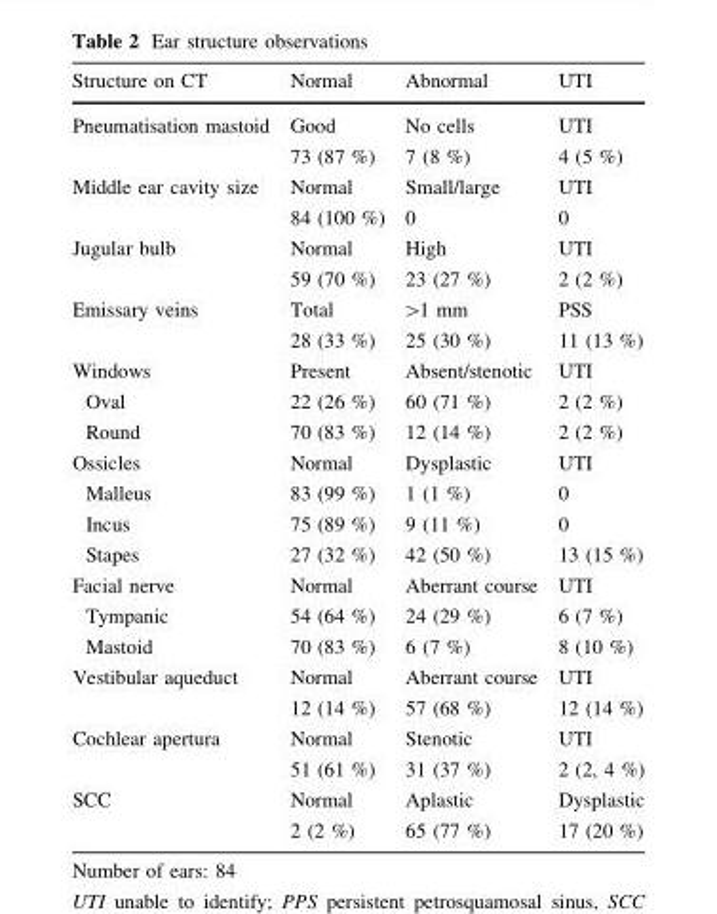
<table><thead><tr><td>Structure on CT</td><td>Normal</td><td>Abnormal</td><td>UTI</td></tr></thead><tbody><tr><td rowspan="2">Pneumatisation mastoid</td><td>Good</td><td>No cells</td><td>UTI</td></tr><tr><td>73 (87 %)</td><td>7 (8 %)</td><td>4 (5 %)</td></tr><tr><td rowspan="2">Middle ear cavity size</td><td>Normal</td><td>Small/large</td><td>UTI</td></tr><tr><td>84 (100 %)</td><td>0</td><td>0</td></tr><tr><td rowspan="2">Jugular bulb</td><td>Normal</td><td>High</td><td>UTI</td></tr><tr><td>59 (70 %)</td><td>23 (27 %)</td><td>2 (2 %)</td></tr><tr><td rowspan="2">Emissary veins</td><td>Total</td><td>&gt;1 mm</td><td>PSS</td></tr><tr><td>28 (33 %)</td><td>25 (30 %)</td><td>11 (13 %)</td></tr><tr><td>Windows</td><td>Present</td><td>Absent/stenotic</td><td>UTI</td></tr><tr><td>Oval</td><td>22 (26 %)</td><td>60 (71 %)</td><td>2 (2 %)</td></tr><tr><td>Round</td><td>70 (83 %)</td><td>12 (14 %)</td><td>2 (2 %)</td></tr><tr><td>Ossicles</td><td>Normal</td><td>Dysplastic</td><td>UTI</td></tr><tr><td>Malleus</td><td>83 (99 %)</td><td>1 (1 %)</td><td>0</td></tr><tr><td>Incus</td><td>75 (89 %)</td><td>9 (11 %)</td><td>0</td></tr><tr><td>Stapes</td><td>27 (32 %)</td><td>42 (50 %)</td><td>13 (15 %)</td></tr><tr><td>Facial nerve</td><td>Normal</td><td>Aberrant course</td><td>UTI</td></tr><tr><td>Tympanic</td><td>54 (64 %)</td><td>24 (29 %)</td><td>6 (7 %)</td></tr><tr><td>Mastoid</td><td>70 (83 %)</td><td>6 (7 %)</td><td>8 (10 %)</td></tr><tr><td rowspan="2">Vestibular aqueduct</td><td>Normal</td><td>Aberrant course</td><td>UTI</td></tr><tr><td>12 (14 %)</td><td>57 (68 %)</td><td>12 (14 %)</td></tr><tr><td rowspan="2">Cochlear apertura</td><td>Normal</td><td>Stenotic</td><td>UTI</td></tr><tr><td>51 (61 %)</td><td>31 (37 %)</td><td>2 (2, 4 %)</td></tr><tr><td rowspan="2">SCC</td><td>Normal</td><td>Aplastic</td><td>Dysplastic</td></tr><tr><td>2 (2 %)</td><td>65 (77 %)</td><td>17 (20 %)</td></tr></tbody></table>